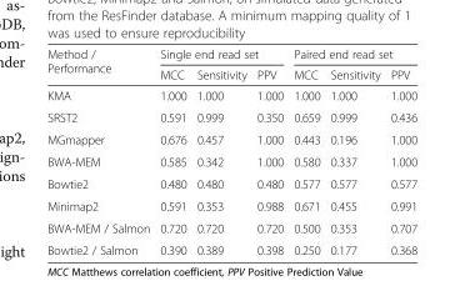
<table><thead><tr><td rowspan="2">Method / Performance</td><td colspan="3">Single end read set</td><td colspan="3">Paired end read set</td></tr><tr><td>MCC</td><td>Sensitivity</td><td>PPV</td><td>MCC</td><td>Sensitivity</td><td>PPV</td></tr></thead><tbody><tr><td>KMA</td><td>1.000</td><td>1.000</td><td>1.000</td><td>1.000</td><td>1.000</td><td>1.000</td></tr><tr><td>SRST2</td><td>0.591</td><td>0.999</td><td>0.350</td><td>0.659</td><td>0.999</td><td>0.436</td></tr><tr><td>MGmapper</td><td>0.676</td><td>0.457</td><td>1.000</td><td>0.443</td><td>0.196</td><td>1.000</td></tr><tr><td>BWA-MEM</td><td>0.585</td><td>0.342</td><td>1.000</td><td>0.580</td><td>0.337</td><td>1.000</td></tr><tr><td>Bowtie2</td><td>0.480</td><td>0.480</td><td>0.480</td><td>0.577</td><td>0.577</td><td>0.577</td></tr><tr><td>Minimap2</td><td>0.591</td><td>0.353</td><td>0.988</td><td>0.671</td><td>0.455</td><td>0.991</td></tr><tr><td>BWA-MEM / Salmon</td><td>0.720</td><td>0.720</td><td>0.720</td><td>0.500</td><td>0.353</td><td>0.707</td></tr><tr><td>Bowtie2 / Salmon</td><td>0.390</td><td>0.389</td><td>0.398</td><td>0.250</td><td>0.177</td><td>0.368</td></tr></tbody></table>